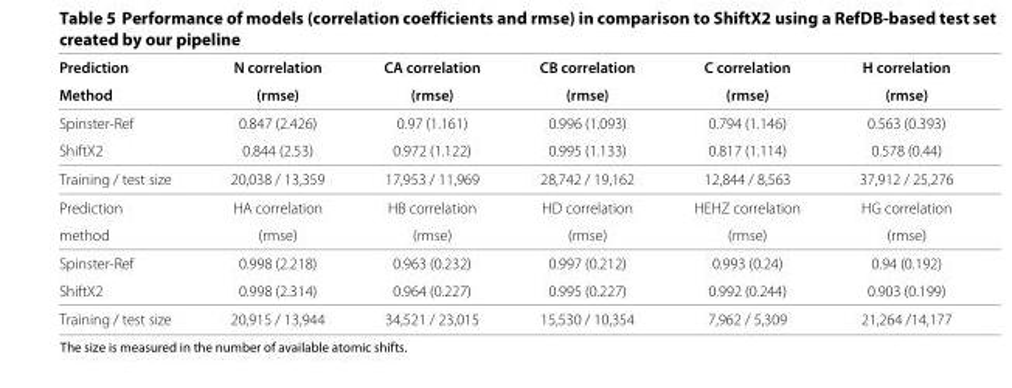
<table><thead><tr><td rowspan="2">Prediction Method</td><td rowspan="2">N correlation (rmse)</td><td rowspan="2">CA correlation (rmse)</td><td rowspan="2">CB correlation (rmse)</td><td rowspan="2">C correlation (rmse)</td><td rowspan="2">H correlation (rmse)</td></tr><tr></tr></thead><tbody><tr><td>Spinster-Ref</td><td>0.847 (2.426)</td><td>0.97 (1.161)</td><td>0.996 (1.093)</td><td>0.794 (1.146)</td><td>0.563 (0.393)</td></tr><tr><td>ShiftX2</td><td>0.844 (2.53)</td><td>0.972 (1.122)</td><td>0.995 (1.133)</td><td>0.817 (1.114)</td><td>0.578 (0.44)</td></tr><tr><td>Training / test size</td><td>20,038 / 13,359</td><td>17,953 / 11,969</td><td>28,742 / 19,162</td><td>12,844 / 8,563</td><td>37,912 / 25,276</td></tr><tr><td>Prediction</td><td>HA correlation</td><td>HB correlation</td><td>HD correlation</td><td>HEHZ correlation</td><td>HG correlation</td></tr><tr><td>method</td><td>(rmse)</td><td>(rmse)</td><td>(rmse)</td><td>(rmse)</td><td>(rmse)</td></tr><tr><td>Spinster-Ref</td><td>0.998 (2.218)</td><td>0.963 (0.232)</td><td>0.997 (0.212)</td><td>0.993 (0.24)</td><td>0.94 (0.192)</td></tr><tr><td>ShiftX2</td><td>0.998 (2.314)</td><td>0.964 (0.227)</td><td>0.995 (0.227)</td><td>0.992 (0.244)</td><td>0.903 (0.199)</td></tr><tr><td>Training / test size</td><td>20,915 / 13,944</td><td>34,521 / 23,015</td><td>15,530 / 10,354</td><td>7,962 / 5,309</td><td>21,264 /14,177</td></tr></tbody></table>